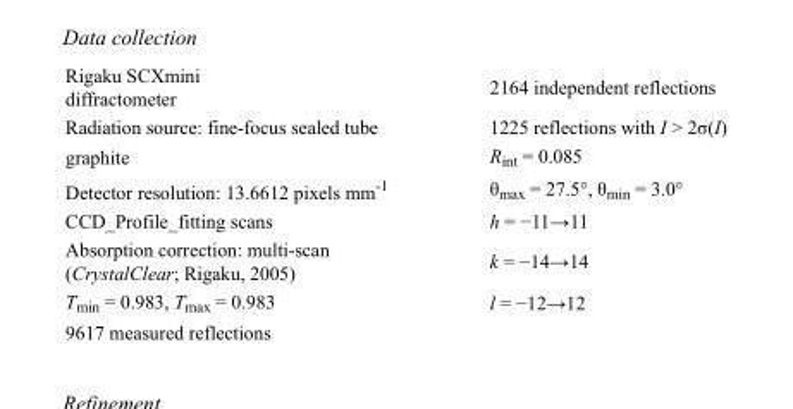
<table><tbody><tr><td>Rigaku SCXmini diffractometer</td><td>2164 independent reflections</td></tr><tr><td>Radiation source: fine-focus sealed tube</td><td>1225 reflections with I &gt; 2σ(I)</td></tr><tr><td>graphite</td><td>R<sub>int</sub> = 0.085</td></tr><tr><td>Detector resolution: 13.6612 pixels mm<sup>-1</sup></td><td>θ<sub>max</sub> = 27.5°, θ<sub>min</sub> = 3.0°</td></tr><tr><td>CCD_Profile_fitting scans</td><td>h = −11→11</td></tr><tr><td>Absorption correction: multi-scan (CrystalClear; Rigaku, 2005)</td><td>k = −14→14</td></tr><tr><td>T<sub>min</sub> = 0.983, T<sub>max</sub> = 0.983</td><td>l = −12→12</td></tr><tr><td>9617 measured reflections</td><td></td></tr></tbody></table>